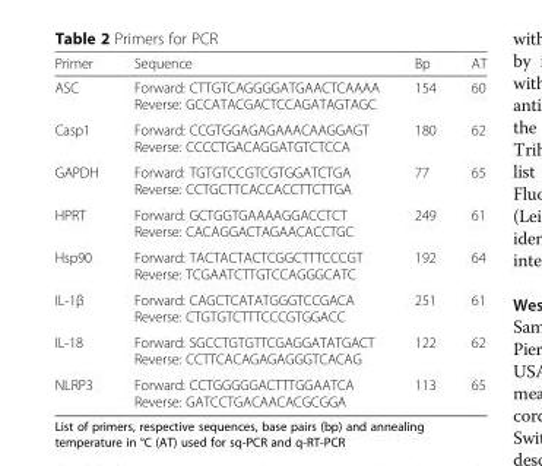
<table><thead><tr><td>Primer</td><td>Sequence</td><td>Bp</td><td>AT</td></tr></thead><tbody><tr><td>ASC</td><td>Forward: CTTGTCAGGGGATGAACTCAAAA Reverse: GCCATACGACTCCAGATAGTAGC</td><td>154</td><td>60</td></tr><tr><td>Casp1</td><td>Forward: CCGTGGAGAGAAACAAGGAGT Reverse: CCCCTGACAGGATGTCTCCA</td><td>180</td><td>62</td></tr><tr><td>GAPDH</td><td>Forward: TGTGTCCGTCGTGGATCTGA Reverse: CCTGCTTCACCACCTTCTTGA</td><td>77</td><td>65</td></tr><tr><td>HPRT</td><td>Forward: GCTGGTGAAAAGGACCTCT Reverse: CACAGGACTAGAACACCTGC</td><td>249</td><td>61</td></tr><tr><td>Hsp90</td><td>Forward: TACTACTACTCGGCTTTCCCGT Reverse: TCGAATCTTGTCCAGGGCATC</td><td>192</td><td>64</td></tr><tr><td>IL-1β</td><td>Forward: CAGCTCATATGGGTCCGACA Reverse: CTGTGTCTTTCCCGTGGACC</td><td>251</td><td>61</td></tr><tr><td>IL-18</td><td>Forward: SGCCTGTGTTCGAGGATATGACT Reverse: CCTTCACAGAGAGGGTCACAG</td><td>122</td><td>62</td></tr><tr><td>NLRP3</td><td>Forward: CCTGGGGGACTTTGGAATCA Reverse: GATCCTGACAACACGCGGA</td><td>113</td><td>65</td></tr></tbody></table>